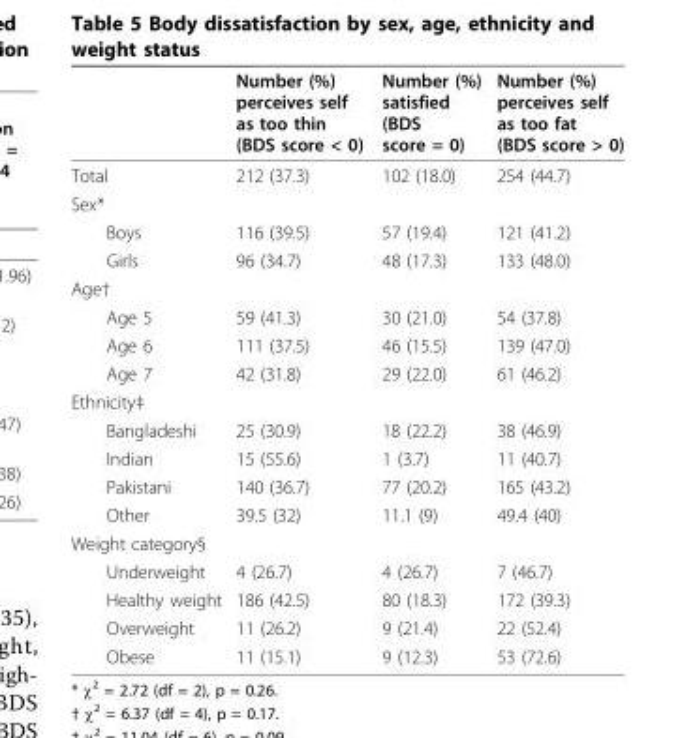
<table><thead><tr><td></td><td>Number (%) perceives self as too thin (BDS score &lt; 0)</td><td>Number (%) satisfied (BDS score = 0)</td><td>Number (%) perceives self as too fat (BDS score &gt; 0)</td></tr></thead><tbody><tr><td>Total</td><td>212 (37.3)</td><td>102 (18.0)</td><td>254 (44.7)</td></tr><tr><td colspan="4">Sex*</td></tr><tr><td>Boys</td><td>116 (39.5)</td><td>57 (19.4)</td><td>121 (41.2)</td></tr><tr><td>Girls</td><td>96 (34.7)</td><td>48 (17.3)</td><td>133 (48.0)</td></tr><tr><td colspan="4">Age†</td></tr><tr><td>Age 5</td><td>59 (41.3)</td><td>30 (21.0)</td><td>54 (37.8)</td></tr><tr><td>Age 6</td><td>111 (37.5)</td><td>46 (15.5)</td><td>139 (47.0)</td></tr><tr><td>Age 7</td><td>42 (31.8)</td><td>29 (22.0)</td><td>61 (46.2)</td></tr><tr><td colspan="4">Ethnicity‡</td></tr><tr><td>Bangladeshi</td><td>25 (30.9)</td><td>18 (22.2)</td><td>38 (46.9)</td></tr><tr><td>Indian</td><td>15 (55.6)</td><td>1 (3.7)</td><td>11 (40.7)</td></tr><tr><td>Pakistani</td><td>140 (36.7)</td><td>77 (20.2)</td><td>165 (43.2)</td></tr><tr><td>Other</td><td>39.5 (32)</td><td>11.1 (9)</td><td>49.4 (40)</td></tr><tr><td colspan="4">Weight category§</td></tr><tr><td>Underweight</td><td>4 (26.7)</td><td>4 (26.7)</td><td>7 (46.7)</td></tr><tr><td>Healthy weight</td><td>186 (42.5)</td><td>80 (18.3)</td><td>172 (39.3)</td></tr><tr><td>Overweight</td><td>11 (26.2)</td><td>9 (21.4)</td><td>22 (52.4)</td></tr><tr><td>Obese</td><td>11 (15.1)</td><td>9 (12.3)</td><td>53 (72.6)</td></tr></tbody></table>